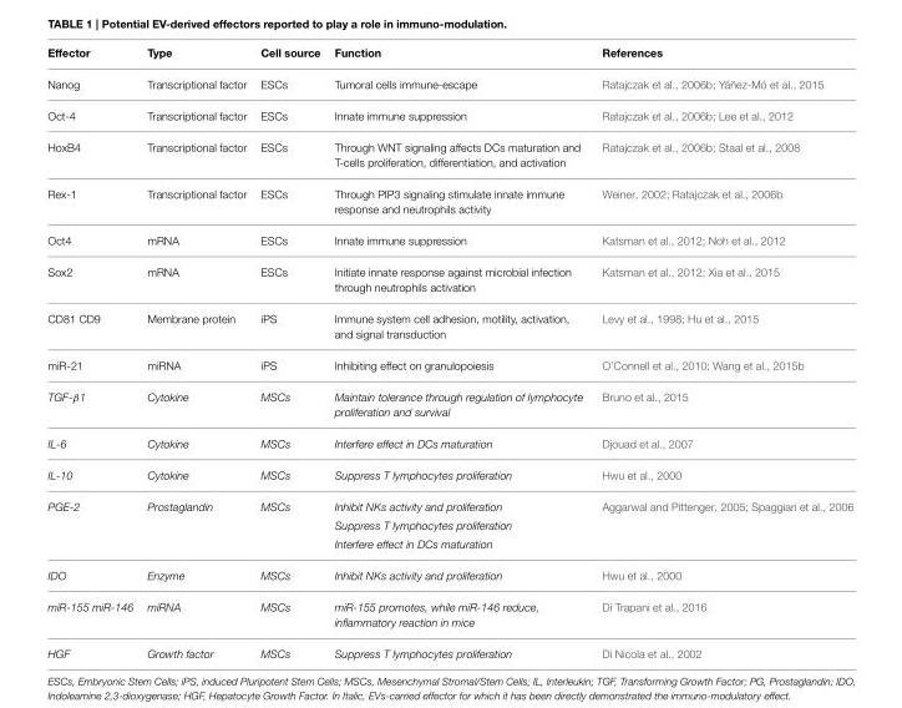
<table><thead><tr><td>Effector</td><td>Type</td><td>Cell source</td><td>Function</td><td>References</td></tr></thead><tbody><tr><td>Nanog</td><td>Transcriptional factor</td><td>ESCs</td><td>Tumoral cells immune-escape</td><td>Ratajczak et al., 2006b; Yáñez-Mó et al., 2015</td></tr><tr><td>Oct-4</td><td>Transcriptional factor</td><td>ESCs</td><td>Innate immune suppression</td><td>Ratajczak et al., 2006b; Lee et al., 2012</td></tr><tr><td>HoxB4</td><td>Transcriptional factor</td><td>ESCs</td><td>Through WNT signaling affects DCs maturation and T-cells proliferation, differentiation, and activation</td><td>Ratajczak et al., 2006b; Staal et al., 2008</td></tr><tr><td>Rex-1</td><td>Transcriptional factor</td><td>ESCs</td><td>Through PIP3 signaling stimulate innate immune response and neutrophils activity</td><td>Weiner, 2002; Ratajczak et al., 2006b</td></tr><tr><td>Oct4</td><td>mRNA</td><td>ESCs</td><td>Innate immune suppression</td><td>Katsman et al., 2012; Noh et al., 2012</td></tr><tr><td>Sox2</td><td>mRNA</td><td>ESCs</td><td>Initiate innate response against microbial infection through neutrophils activation</td><td>Katsman et al., 2012; Xia et al., 2015</td></tr><tr><td>CD81 CD9</td><td>Membrane protein</td><td>iPS</td><td>Immune system cell adhesion, motility, activation, and signal transduction</td><td>Levy et al., 1998; Hu et al., 2015</td></tr><tr><td>miR-21</td><td>miRNA</td><td>iPS</td><td>Inhibiting effect on granulopoiesis</td><td>O’Connell et al., 2010; Wang et al., 2015b</td></tr><tr><td>TGF-β1</td><td>Cytokine</td><td>MSCs</td><td>Maintain tolerance through regulation of lymphocyte proliferation and survival</td><td>Bruno et al., 2015</td></tr><tr><td>IL-6</td><td>Cytokine</td><td>MSCs</td><td>Interfere effect in DCs maturation</td><td>Djouad et al., 2007</td></tr><tr><td>IL-10</td><td>Cytokine</td><td>MSCs</td><td>Suppress T lymphocytes proliferation</td><td>Hwu et al., 2000</td></tr><tr><td rowspan="3">PGE-2</td><td>Prostaglandin</td><td>MSCs</td><td>Inhibit NKs activity and proliferation</td><td>Aggarwal and Pittenger, 2005; Spaggiari et al., 2006</td></tr><tr><td></td><td></td><td>Suppress T lymphocytes proliferation</td><td></td></tr><tr><td></td><td></td><td>Interfere effect in DCs maturation</td><td></td></tr><tr><td>IDO</td><td>Enzyme</td><td>MSCs</td><td>Inhibit NKs activity and proliferation</td><td>Hwu et al., 2000</td></tr><tr><td>miR-155 miR-146</td><td>miRNA</td><td>MSCs</td><td>miR-155 promotes, while miR-146 reduce, inflammatory reaction in mice</td><td>Di Trapani et al., 2016</td></tr><tr><td>HGF</td><td>Growth factor</td><td>MSCs</td><td>Suppress T lymphocytes proliferation</td><td>Di Nicola et al., 2002</td></tr></tbody></table>